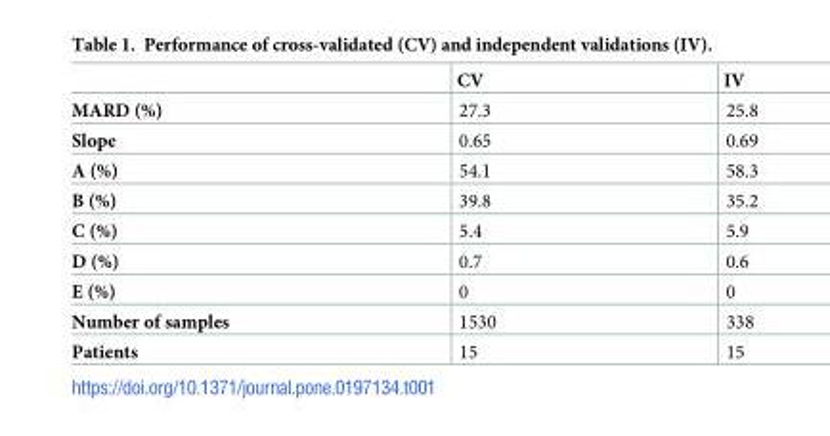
<table><thead><tr><td></td><td>CV</td><td>IV</td></tr></thead><tbody><tr><td>MARD (%)</td><td>27.3</td><td>25.8</td></tr><tr><td>Slope</td><td>0.65</td><td>0.69</td></tr><tr><td>A (%)</td><td>54.1</td><td>58.3</td></tr><tr><td>B (%)</td><td>39.8</td><td>35.2</td></tr><tr><td>C (%)</td><td>5.4</td><td>5.9</td></tr><tr><td>D (%)</td><td>0.7</td><td>0.6</td></tr><tr><td>E (%)</td><td>0</td><td>0</td></tr><tr><td>Number of samples</td><td>1530</td><td>338</td></tr><tr><td>Patients</td><td>15</td><td>15</td></tr></tbody></table>